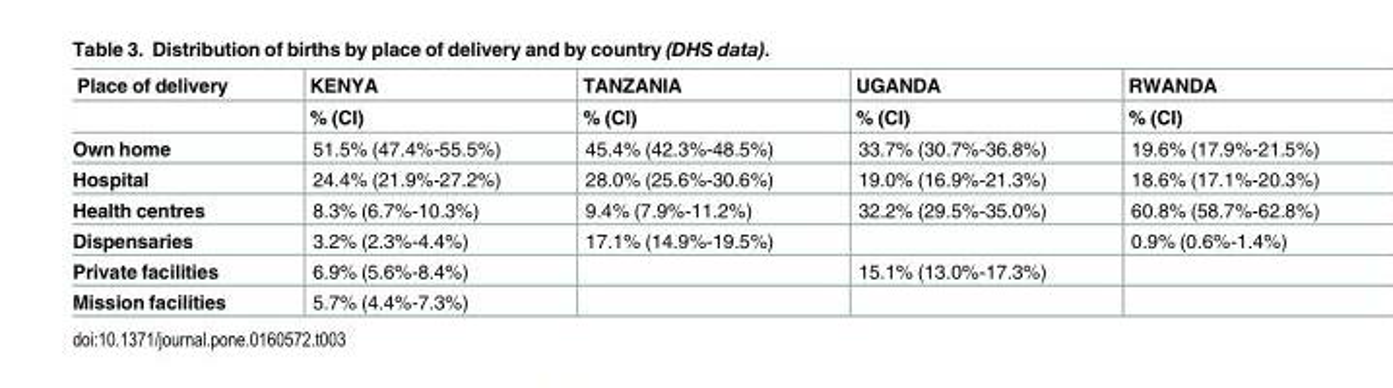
<table><thead><tr><td rowspan="2">Place of delivery</td><td rowspan="2">KENYA % (CI)</td><td rowspan="2">TANZANIA % (CI)</td><td rowspan="2">UGANDA % (CI)</td><td rowspan="2">RWANDA % (CI)</td></tr><tr></tr></thead><tbody><tr><td>Own home</td><td>51.5% (47.4%-55.5%)</td><td>45.4% (42.3%-48.5%)</td><td>33.7% (30.7%-36.8%)</td><td>19.6% (17.9%-21.5%)</td></tr><tr><td>Hospital</td><td>24.4% (21.9%-27.2%)</td><td>28.0% (25.6%-30.6%)</td><td>19.0% (16.9%-21.3%)</td><td>18.6% (17.1%-20.3%)</td></tr><tr><td>Health centres</td><td>8.3% (6.7%-10.3%)</td><td>9.4% (7.9%-11.2%)</td><td>32.2% (29.5%-35.0%)</td><td>60.8% (58.7%-62.8%)</td></tr><tr><td>Dispensaries</td><td>3.2% (2.3%-4.4%)</td><td>17.1% (14.9%-19.5%)</td><td></td><td>0.9% (0.6%-1.4%)</td></tr><tr><td>Private facilities</td><td>6.9% (5.6%-8.4%)</td><td></td><td>15.1% (13.0%-17.3%)</td><td></td></tr><tr><td>Mission facilities</td><td>5.7% (4.4%-7.3%)</td><td></td><td></td><td></td></tr></tbody></table>